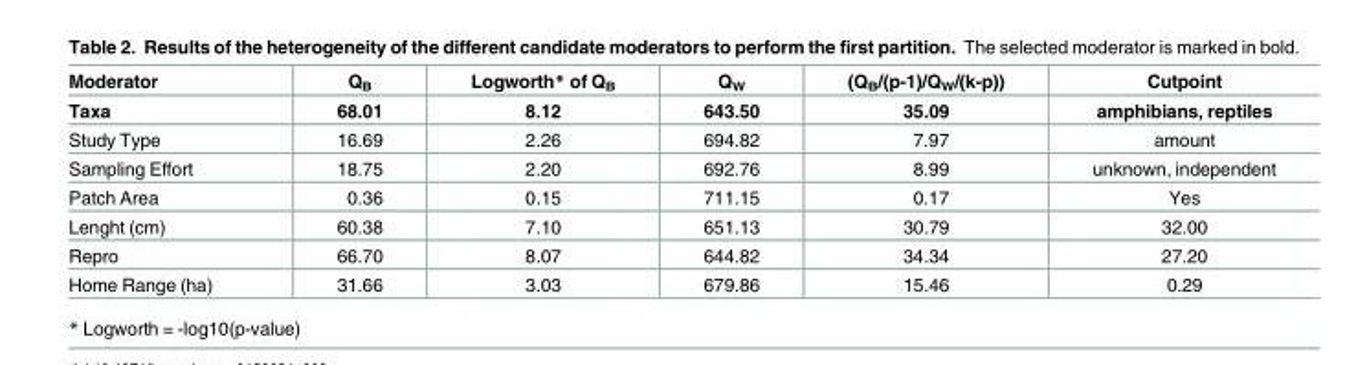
<table><thead><tr><td>Moderator</td><td>Q<sub>B</sub></td><td>Logworth* of Q<sub>B</sub></td><td>Q<sub>W</sub></td><td>(Q<sub>B</sub>/(p-1)/Q<sub>W</sub>/(k-p))</td><td>Cutpoint</td></tr></thead><tbody><tr><td>Taxa</td><td>68.01</td><td>8.12</td><td>643.50</td><td>35.09</td><td>amphibians, reptiles</td></tr><tr><td>Study Type</td><td>16.69</td><td>2.26</td><td>694.82</td><td>7.97</td><td>amount</td></tr><tr><td>Sampling Effort</td><td>18.75</td><td>2.20</td><td>692.76</td><td>8.99</td><td>unknown, independent</td></tr><tr><td>Patch Area</td><td>0.36</td><td>0.15</td><td>711.15</td><td>0.17</td><td>Yes</td></tr><tr><td>Lenght (cm)</td><td>60.38</td><td>7.10</td><td>651.13</td><td>30.79</td><td>32.00</td></tr><tr><td>Repro</td><td>66.70</td><td>8.07</td><td>644.82</td><td>34.34</td><td>27.20</td></tr><tr><td>Home Range (ha)</td><td>31.66</td><td>3.03</td><td>679.86</td><td>15.46</td><td>0.29</td></tr></tbody></table>